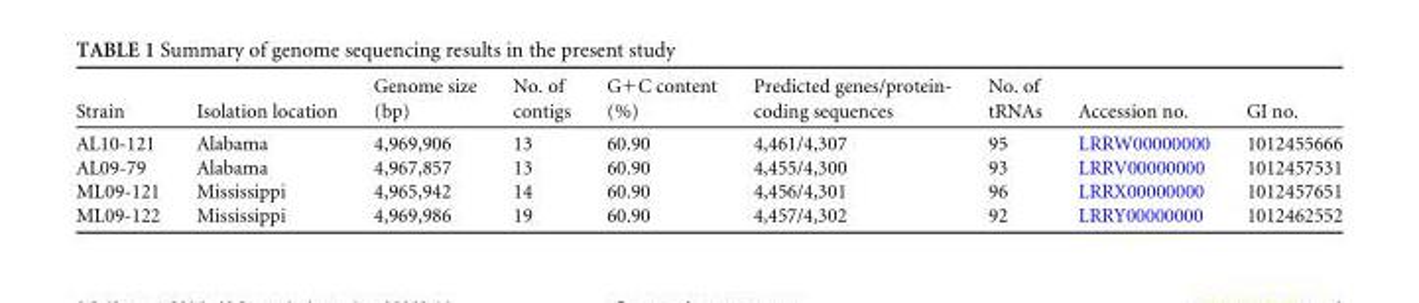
<table><thead><tr><td>Strain</td><td>Isolation location</td><td>Genome size (bp)</td><td>No. of contigs</td><td>G+C content (%)</td><td>Predicted genes/protein- coding sequences</td><td>No. of tRNAs</td><td>Accession no.</td><td>GI no.</td></tr></thead><tbody><tr><td>AL10-121</td><td>Alabama</td><td>4,969,906</td><td>13</td><td>60.90</td><td>4,461/4,307</td><td>95</td><td>LRRW00000000</td><td>1012455666</td></tr><tr><td>AL09-79</td><td>Alabama</td><td>4,967,857</td><td>13</td><td>60.90</td><td>4,455/4,300</td><td>93</td><td>LRRV00000000</td><td>1012457531</td></tr><tr><td>ML09-121</td><td>Mississippi</td><td>4,965,942</td><td>14</td><td>60.90</td><td>4,456/4,301</td><td>96</td><td>LRRX00000000</td><td>1012457651</td></tr><tr><td>ML09-122</td><td>Mississippi</td><td>4,969,986</td><td>19</td><td>60.90</td><td>4,457/4,302</td><td>92</td><td>LRRY00000000</td><td>1012462552</td></tr></tbody></table>